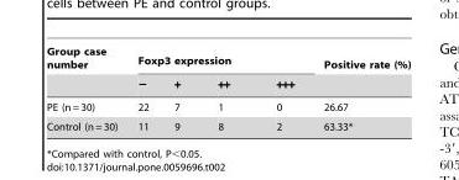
<table><thead><tr><td rowspan="2">Group case number</td><td colspan="4">Foxp3 expression</td><td rowspan="2">Positive rate (%)</td></tr><tr><td>−</td><td>+</td><td>++</td><td>+++</td></tr></thead><tbody><tr><td>PE (n = 30)</td><td>22</td><td>7</td><td>1</td><td>0</td><td>26.67</td></tr><tr><td>Control (n = 30)</td><td>11</td><td>9</td><td>8</td><td>2</td><td>63.33*</td></tr></tbody></table>